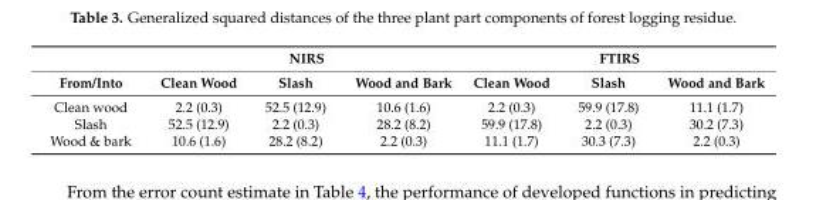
<table><thead><tr><td rowspan="2">From/Into</td><td colspan="3">NIRS</td><td colspan="3">FTIRS</td></tr><tr><td>Clean Wood</td><td>Slash</td><td>Wood and Bark</td><td>Clean Wood</td><td>Slash</td><td>Wood and Bark</td></tr></thead><tbody><tr><td>Clean wood</td><td>2.2 (0.3)</td><td>52.5 (12.9)</td><td>10.6 (1.6)</td><td>2.2 (0.3)</td><td>59.9 (17.8)</td><td>11.1 (1.7)</td></tr><tr><td>Slash</td><td>52.5 (12.9)</td><td>2.2 (0.3)</td><td>28.2 (8.2)</td><td>59.9 (17.8)</td><td>2.2 (0.3)</td><td>30.2 (7.3)</td></tr><tr><td>Wood &amp; bark</td><td>10.6 (1.6)</td><td>28.2 (8.2)</td><td>2.2 (0.3)</td><td>11.1 (1.7)</td><td>30.3 (7.3)</td><td>2.2 (0.3)</td></tr></tbody></table>